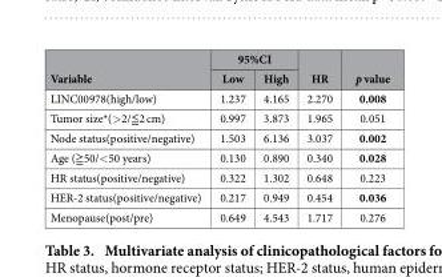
<table><thead><tr><td rowspan="2">Variable</td><td colspan="2">95%CI</td><td rowspan="2">HR</td><td rowspan="2">p value</td></tr><tr><td>Low</td><td>High</td></tr></thead><tbody><tr><td>LINC00978(high/low)</td><td>1.237</td><td>4.165</td><td>2.270</td><td>0.008</td></tr><tr><td>Tumor size*(&gt; 2/≦ 2 cm)</td><td>0.997</td><td>3.873</td><td>1.965</td><td>0.051</td></tr><tr><td>Node status(positive/negative)</td><td>1.503</td><td>6.136</td><td>3.037</td><td>0.002</td></tr><tr><td>Age (≧ 50/&lt; 50 years)</td><td>0.130</td><td>0.890</td><td>0.340</td><td>0.028</td></tr><tr><td>HR status(positive/negative)</td><td>0.322</td><td>1.302</td><td>0.648</td><td>0.223</td></tr><tr><td>HER-2 status(positive/negative)</td><td>0.217</td><td>0.949</td><td>0.454</td><td>0.036</td></tr><tr><td>Menopause(post/pre)</td><td>0.649</td><td>4.543</td><td>1.717</td><td>0.276</td></tr></tbody></table>